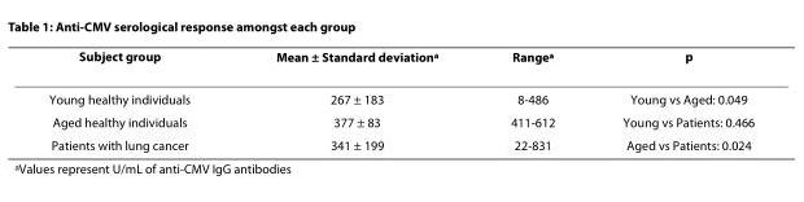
<table><thead><tr><td>Subject group</td><td>Mean ± Standard deviation<sup>a</sup></td><td>Range<sup>a</sup></td><td>p</td></tr></thead><tbody><tr><td>Young healthy individuals</td><td>267 ± 183</td><td>8-486</td><td>Young vs Aged: 0.049</td></tr><tr><td>Aged healthy individuals</td><td>377 ± 83</td><td>411-612</td><td>Young vs Patients: 0.466</td></tr><tr><td>Patients with lung cancer</td><td>341 ± 199</td><td>22-831</td><td>Aged vs Patients: 0.024</td></tr></tbody></table>